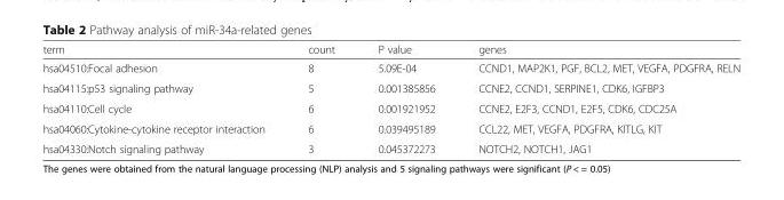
<table><thead><tr><td>term</td><td>count</td><td>P value</td><td>genes</td></tr></thead><tbody><tr><td>hsa04510:Focal adhesion</td><td>8</td><td>5.09E-04</td><td>CCND1, MAP2K1, PGF, BCL2, MET, VEGFA, PDGFRA, RELN</td></tr><tr><td>hsa04115:p53 signaling pathway</td><td>5</td><td>0.001385856</td><td>CCNE2, CCND1, SERPINE1, CDK6, IGFBP3</td></tr><tr><td>hsa04110:Cell cycle</td><td>6</td><td>0.001921952</td><td>CCNE2, E2F3, CCND1, E2F5, CDK6, CDC25A</td></tr><tr><td>hsa04060:Cytokine-cytokine receptor interaction</td><td>6</td><td>0.039495189</td><td>CCL22, MET, VEGFA, PDGFRA, KITLG, KIT</td></tr><tr><td>hsa04330:Notch signaling pathway</td><td>3</td><td>0.045372273</td><td>NOTCH2, NOTCH1, JAG1</td></tr></tbody></table>